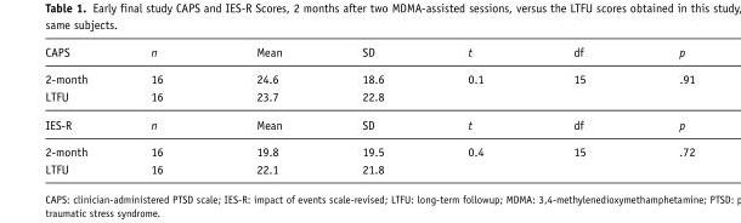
<table><thead><tr><td>CAPS</td><td>n</td><td>Mean</td><td>SD</td><td>t</td><td>df</td><td>p</td></tr></thead><tbody><tr><td>2-month</td><td>16</td><td>24.6</td><td>18.6</td><td>0.1</td><td>15</td><td>.91</td></tr><tr><td>LTFU</td><td>16</td><td>23.7</td><td>22.8</td><td></td><td></td><td></td></tr><tr><td>IES-R</td><td>n</td><td>Mean</td><td>SD</td><td>t</td><td>df</td><td>p</td></tr><tr><td>2-month</td><td>16</td><td>19.8</td><td>19.5</td><td>0.4</td><td>15</td><td>.72</td></tr><tr><td>LTFU</td><td>16</td><td>22.1</td><td>21.8</td><td></td><td></td><td></td></tr></tbody></table>